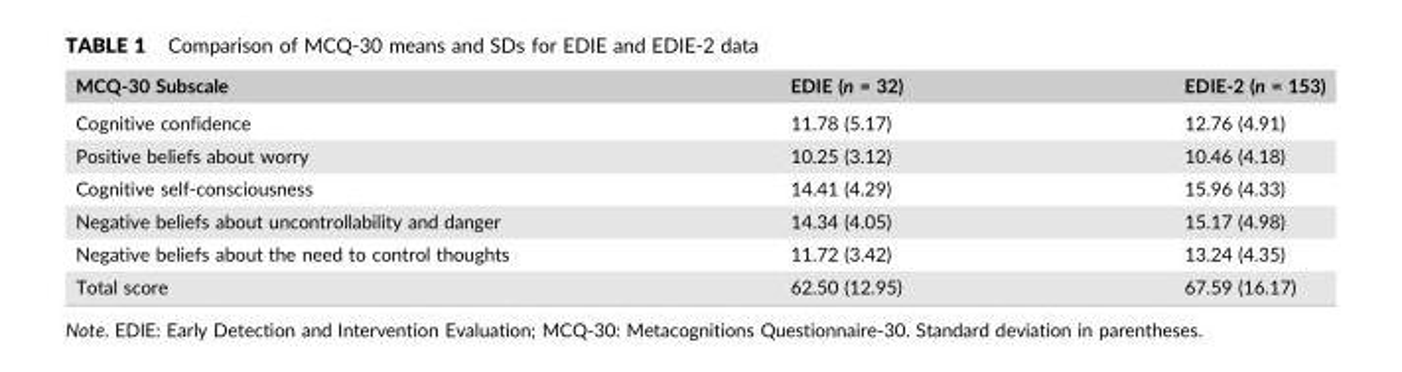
<table><thead><tr><td>MCQ‐30 Subscale</td><td>EDIE (n = 32)</td><td>EDIE‐2 (n = 153)</td></tr></thead><tbody><tr><td>Cognitive confidence</td><td>11.78 (5.17)</td><td>12.76 (4.91)</td></tr><tr><td>Positive beliefs about worry</td><td>10.25 (3.12)</td><td>10.46 (4.18)</td></tr><tr><td>Cognitive self‐consciousness</td><td>14.41 (4.29)</td><td>15.96 (4.33)</td></tr><tr><td>Negative beliefs about uncontrollability and danger</td><td>14.34 (4.05)</td><td>15.17 (4.98)</td></tr><tr><td>Negative beliefs about the need to control thoughts</td><td>11.72 (3.42)</td><td>13.24 (4.35)</td></tr><tr><td>Total score</td><td>62.50 (12.95)</td><td>67.59 (16.17)</td></tr></tbody></table>